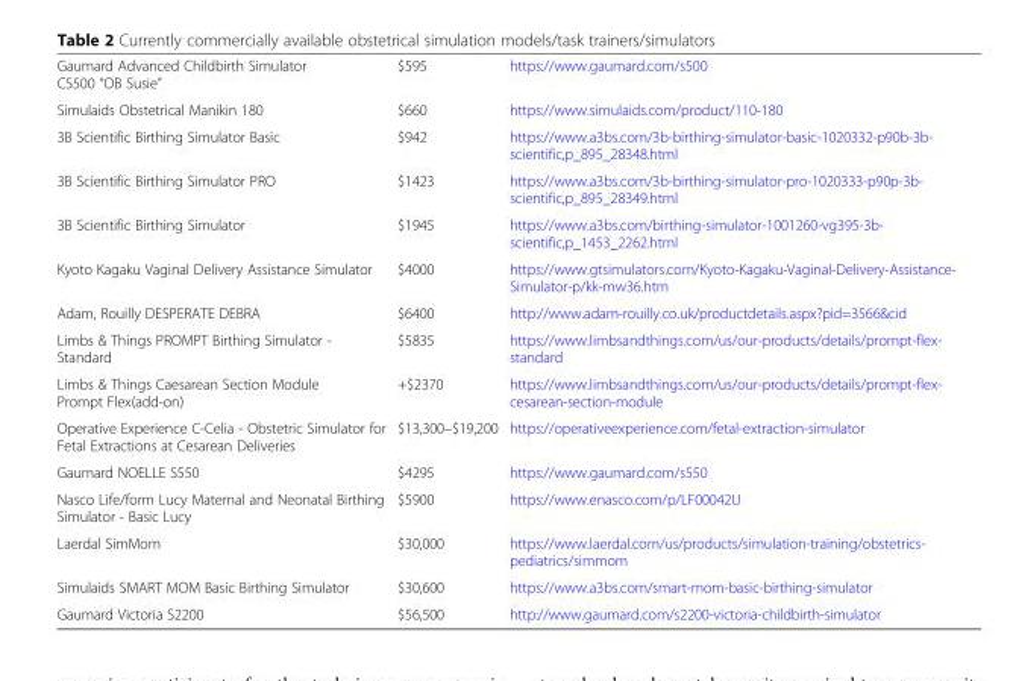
<table><tbody><tr><td>Gaumard Advanced Childbirth Simulator CS500 “OB Susie”</td><td>$595</td><td>https://www.gaumard.com/s500</td></tr><tr><td>Simulaids Obstetrical Manikin 180</td><td>$660</td><td>https://www.simulaids.com/product/110-180</td></tr><tr><td>3B Scientific Birthing Simulator Basic</td><td>$942</td><td>https://www.a3bs.com/3b-birthing-simulator-basic-1020332-p90b-3b- scientific,p_895_28348.html</td></tr><tr><td>3B Scientific Birthing Simulator PRO</td><td>$1423</td><td>https://www.a3bs.com/3b-birthing-simulator-pro-1020333-p90p-3b- scientific,p_895_28349.html</td></tr><tr><td>3B Scientific Birthing Simulator</td><td>$1945</td><td>https://www.a3bs.com/birthing-simulator-1001260-vg395-3b- scientific,p_1453_2262.html</td></tr><tr><td>Kyoto Kagaku Vaginal Delivery Assistance Simulator</td><td>$4000</td><td>https://www.gtsimulators.com/Kyoto-Kagaku-Vaginal-Delivery-Assistance- Simulator-p/kk-mw36.htm</td></tr><tr><td>Adam, Rouilly DESPERATE DEBRA</td><td>$6400</td><td>http://www.adam-rouilly.co.uk/productdetails.aspx?pid=3566&amp;cid</td></tr><tr><td>Limbs &amp; Things PROMPT Birthing Simulator - Standard</td><td>$5835</td><td>https://www.limbsandthings.com/us/our-products/details/prompt-flex- standard</td></tr><tr><td>Limbs &amp; Things Caesarean Section Module Prompt Flex(add-on)</td><td>+$2370</td><td>https://www.limbsandthings.com/us/our-products/details/prompt-flex- cesarean-section-module</td></tr><tr><td>Operative Experience C-Celia - Obstetric Simulator for Fetal Extractions at Cesarean Deliveries</td><td>$13,300–$19,200</td><td>https://operativeexperience.com/fetal-extraction-simulator</td></tr><tr><td>Gaumard NOELLE S550</td><td>$4295</td><td>https://www.gaumard.com/s550</td></tr><tr><td>Nasco Life/form Lucy Maternal and Neonatal Birthing Simulator - Basic Lucy</td><td>$5900</td><td>https://www.enasco.com/p/LF00042U</td></tr><tr><td>Laerdal SimMom</td><td>$30,000</td><td>https://www.laerdal.com/us/products/simulation-training/obstetrics- pediatrics/simmom</td></tr><tr><td>Simulaids SMART MOM Basic Birthing Simulator</td><td>$30,600</td><td>https://www.a3bs.com/smart-mom-basic-birthing-simulator</td></tr><tr><td>Gaumard Victoria S2200</td><td>$56,500</td><td>http://www.gaumard.com/s2200-victoria-childbirth-simulator</td></tr></tbody></table>